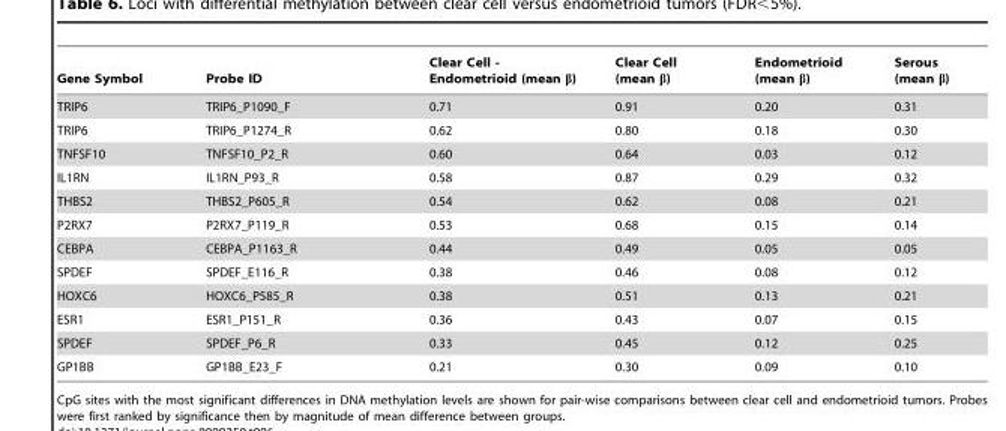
<table><thead><tr><td>Gene Symbol</td><td>Probe ID</td><td>Clear Cell - Endometrioid (mean β)</td><td>Clear Cell (mean β)</td><td>Endometrioid (mean β)</td><td>Serous (mean β)</td></tr></thead><tbody><tr><td>TRIP6</td><td>TRIP6_P1090_F</td><td>0.71</td><td>0.91</td><td>0.20</td><td>0.31</td></tr><tr><td>TRIP6</td><td>TRIP6_P1274_R</td><td>0.62</td><td>0.80</td><td>0.18</td><td>0.30</td></tr><tr><td>TNFSF10</td><td>TNFSF10_P2_R</td><td>0.60</td><td>0.64</td><td>0.03</td><td>0.12</td></tr><tr><td>IL1RN</td><td>IL1RN_P93_R</td><td>0.58</td><td>0.87</td><td>0.29</td><td>0.32</td></tr><tr><td>THBS2</td><td>THBS2_P605_R</td><td>0.54</td><td>0.62</td><td>0.08</td><td>0.21</td></tr><tr><td>P2RX7</td><td>P2RX7_P119_R</td><td>0.53</td><td>0.68</td><td>0.15</td><td>0.14</td></tr><tr><td>CEBPA</td><td>CEBPA_P1163_R</td><td>0.44</td><td>0.49</td><td>0.05</td><td>0.05</td></tr><tr><td>SPDEF</td><td>SPDEF_E116_R</td><td>0.38</td><td>0.46</td><td>0.08</td><td>0.12</td></tr><tr><td>HOXC6</td><td>HOXC6_P585_R</td><td>0.38</td><td>0.51</td><td>0.13</td><td>0.21</td></tr><tr><td>ESR1</td><td>ESR1_P151_R</td><td>0.36</td><td>0.43</td><td>0.07</td><td>0.15</td></tr><tr><td>SPDEF</td><td>SPDEF_P6_R</td><td>0.33</td><td>0.45</td><td>0.12</td><td>0.25</td></tr><tr><td>GP1BB</td><td>GP1BB_E23_F</td><td>0.21</td><td>0.30</td><td>0.09</td><td>0.10</td></tr></tbody></table>